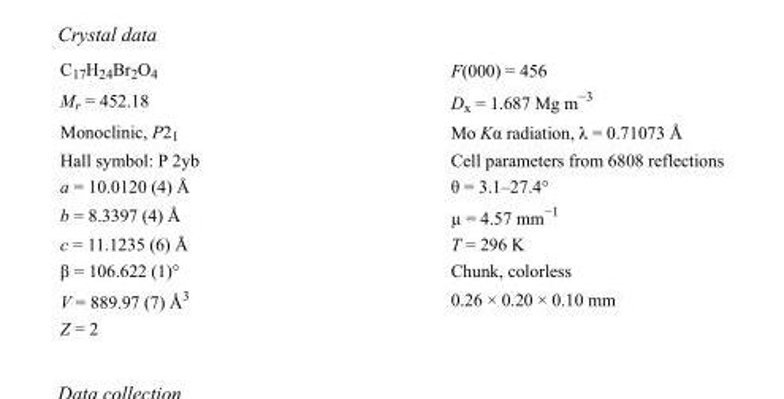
<table><tbody><tr><td>C<sub>17</sub>H<sub>24</sub>Br<sub>2</sub>O<sub>4</sub></td><td>F(000) = 456</td></tr><tr><td>M<sub>r</sub> = 452.18</td><td>D<sub>x</sub> = 1.687 Mg m<sup>−3</sup></td></tr><tr><td>Monoclinic, P2<sub>1</sub></td><td>Mo Kα radiation, λ = 0.71073 Å</td></tr><tr><td>Hall symbol: P 2yb</td><td>Cell parameters from 6808 reflections</td></tr><tr><td>a = 10.0120 (4) Å</td><td>θ = 3.1–27.4°</td></tr><tr><td>b = 8.3397 (4) Å</td><td>µ = 4.57 mm<sup>−1</sup></td></tr><tr><td>c = 11.1235 (6) Å</td><td>T = 296 K</td></tr><tr><td>β = 106.622 (1)°</td><td>Chunk, colorless</td></tr><tr><td>V = 889.97 (7) Å<sup>3</sup></td><td>0.26 × 0.20 × 0.10 mm</td></tr><tr><td>Z = 2</td><td></td></tr></tbody></table>